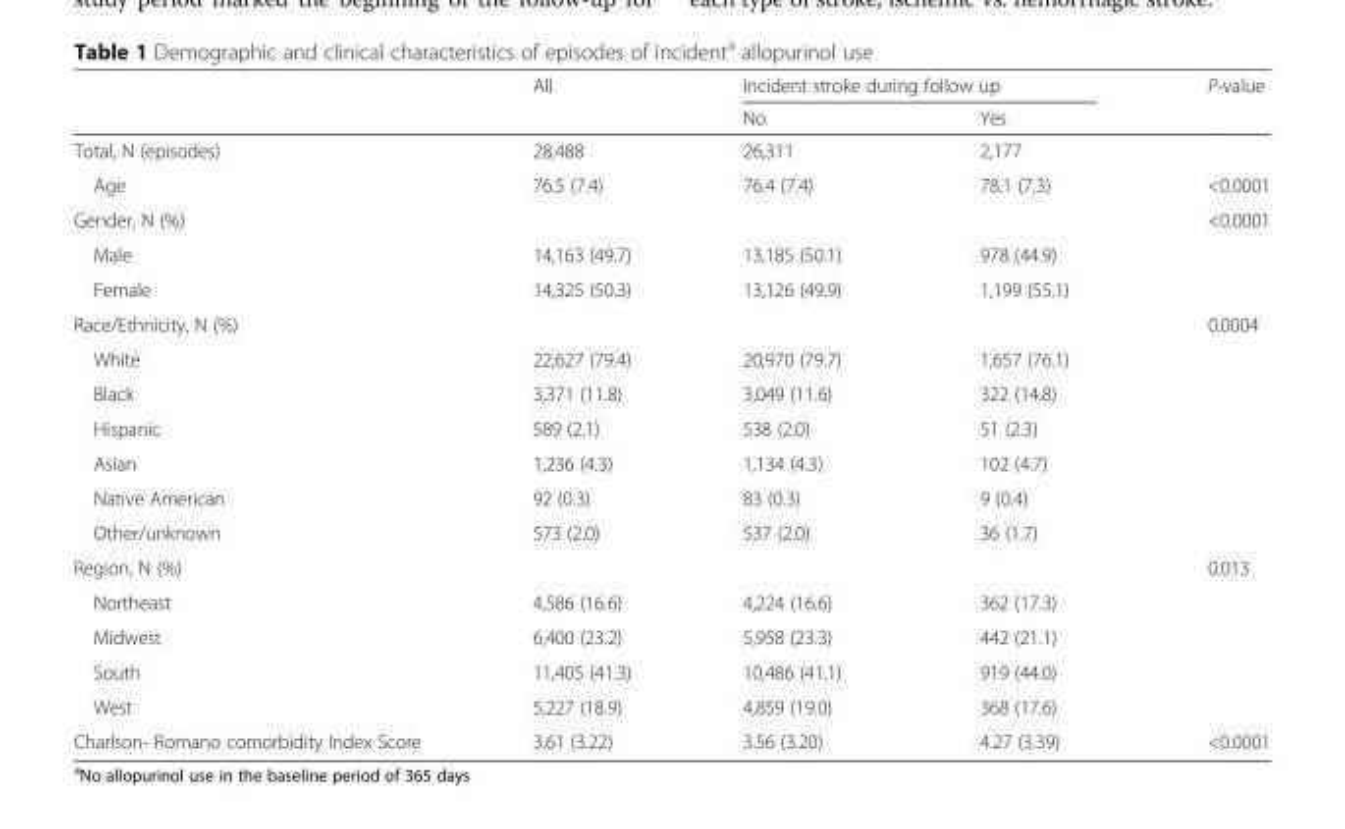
<table><thead><tr><td rowspan="2"></td><td rowspan="2">All</td><td colspan="2">Incident stroke during follow up</td><td rowspan="2">P-value</td></tr><tr><td>No</td><td>Yes</td></tr></thead><tbody><tr><td>Total, N (episodes)</td><td>28,488</td><td>26,311</td><td>2,177</td><td></td></tr><tr><td>Age</td><td>76.5 (7.4)</td><td>76.4 (7.4)</td><td>78.1 (7.3)</td><td>&lt;0.0001</td></tr><tr><td>Gender, N (%)</td><td></td><td></td><td></td><td>&lt;0.0001</td></tr><tr><td>Male</td><td>14,163 (49.7)</td><td>13,185 (50.1)</td><td>978 (44.9)</td><td></td></tr><tr><td>Female</td><td>14,325 (50.3)</td><td>13,126 (49.9)</td><td>1,199 (55.1)</td><td></td></tr><tr><td>Race/Ethnicity, N (%)</td><td></td><td></td><td></td><td>0.0004</td></tr><tr><td>White</td><td>22,627 (79.4)</td><td>20,970 (79.7)</td><td>1,657 (76.1)</td><td></td></tr><tr><td>Black</td><td>3,371 (11.8)</td><td>3,049 (11.6)</td><td>322 (14.8)</td><td></td></tr><tr><td>Hispanic</td><td>589 (2.1)</td><td>538 (2.0)</td><td>51 (2.3)</td><td></td></tr><tr><td>Asian</td><td>1,236 (4.3)</td><td>1,134 (4.3)</td><td>102 (4.7)</td><td></td></tr><tr><td>Native American</td><td>92 (0.3)</td><td>83 (0.3)</td><td>9 (0.4)</td><td></td></tr><tr><td>Other/unknown</td><td>573 (2.0)</td><td>537 (2.0)</td><td>36 (1.7)</td><td></td></tr><tr><td>Region, N (%)</td><td></td><td></td><td></td><td>0.013</td></tr><tr><td>Northeast</td><td>4,586 (16.6)</td><td>4,224 (16.6)</td><td>362 (17.3)</td><td></td></tr><tr><td>Midwest</td><td>6,400 (23.2)</td><td>5,958 (23.3)</td><td>442 (21.1)</td><td></td></tr><tr><td>South</td><td>11,405 (41.3)</td><td>10,486 (41.1)</td><td>919 (44.0)</td><td></td></tr><tr><td>West</td><td>5,227 (18.9)</td><td>4,859 (19.0)</td><td>368 (17.6)</td><td></td></tr><tr><td>Charlson- Romano comorbidity Index Score</td><td>3.61 (3.22)</td><td>3.56 (3.20)</td><td>4.27 (3.39)</td><td>&lt;0.0001</td></tr></tbody></table>